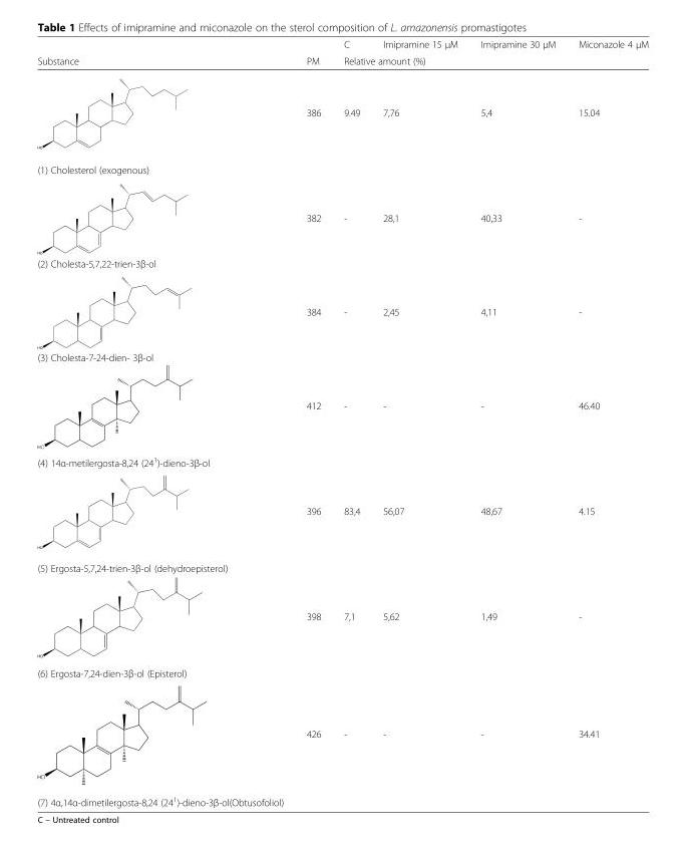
<table><thead><tr><td rowspan="2">Substance</td><td rowspan="2">PM</td><td>C</td><td>Imipramine 15 μM</td><td>Imipramine 30 μM</td><td>Miconazole 4 µM</td></tr><tr><td colspan="4">Relative amount (%)</td></tr></thead><tbody><tr><td>(1) Cholesterol (exogenous)</td><td>386</td><td>9.49</td><td>7,76</td><td>5,4</td><td>15.04</td></tr><tr><td>(2) Cholesta-5,7,22-trien-3β-ol</td><td>382</td><td>-</td><td>28,1</td><td>40,33</td><td>-</td></tr><tr><td>(3) Cholesta-7-24-dien- 3β-ol</td><td>384</td><td>-</td><td>2,45</td><td>4,11</td><td>-</td></tr><tr><td>(4) 14α-metilergosta-8,24 (24<sup>1</sup>)-dieno-3β-ol</td><td>412</td><td>-</td><td>-</td><td>-</td><td>46.40</td></tr><tr><td>(5) Ergosta-5,7,24-trien-3β-ol (dehydroepisterol)</td><td>396</td><td>83,4</td><td>56,07</td><td>48,67</td><td>4.15</td></tr><tr><td>(6) Ergosta-7,24-dien-3β-ol (Episterol)</td><td>398</td><td>7,1</td><td>5,62</td><td>1,49</td><td>-</td></tr><tr><td>(7) 4α,14α-dimetilergosta-8,24 (24<sup>1</sup>)-dieno-3β-ol(Obtusofoliol)</td><td>426</td><td>-</td><td>-</td><td>-</td><td>34.41</td></tr></tbody></table>